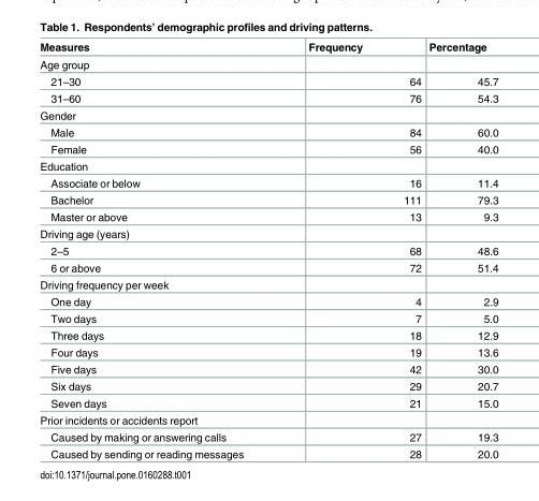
<table><thead><tr><td>Measures</td><td>Frequency</td><td>Percentage</td></tr></thead><tbody><tr><td colspan="3">Age group</td></tr><tr><td>21–30</td><td>64</td><td>45.7</td></tr><tr><td>31–60</td><td>76</td><td>54.3</td></tr><tr><td colspan="3">Gender</td></tr><tr><td>Male</td><td>84</td><td>60.0</td></tr><tr><td>Female</td><td>56</td><td>40.0</td></tr><tr><td colspan="3">Education</td></tr><tr><td>Associate or below</td><td>16</td><td>11.4</td></tr><tr><td>Bachelor</td><td>111</td><td>79.3</td></tr><tr><td>Master or above</td><td>13</td><td>9.3</td></tr><tr><td colspan="3">Driving age (years)</td></tr><tr><td>2–5</td><td>68</td><td>48.6</td></tr><tr><td>6 or above</td><td>72</td><td>51.4</td></tr><tr><td colspan="3">Driving frequency per week</td></tr><tr><td>One day</td><td>4</td><td>2.9</td></tr><tr><td>Two days</td><td>7</td><td>5.0</td></tr><tr><td>Three days</td><td>18</td><td>12.9</td></tr><tr><td>Four days</td><td>19</td><td>13.6</td></tr><tr><td>Five days</td><td>42</td><td>30.0</td></tr><tr><td>Six days</td><td>29</td><td>20.7</td></tr><tr><td>Seven days</td><td>21</td><td>15.0</td></tr><tr><td colspan="3">Prior incidents or accidents report</td></tr><tr><td>Caused by making or answering calls</td><td>27</td><td>19.3</td></tr><tr><td>Caused by sending or reading messages</td><td>28</td><td>20.0</td></tr></tbody></table>